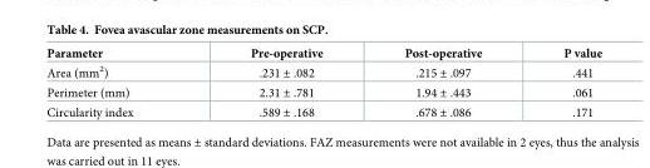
<table><thead><tr><td>Parameter</td><td>Pre-operative</td><td>Post-operative</td><td>P value</td></tr></thead><tbody><tr><td>Area (mm<sup>2</sup>)</td><td>.231 ± .082</td><td>.215 ± .097</td><td>.441</td></tr><tr><td>Perimeter (mm)</td><td>2.31 ± .781</td><td>1.94 ± .443</td><td>.061</td></tr><tr><td>Circularity index</td><td>.589 ± .168</td><td>.678 ± .086</td><td>.171</td></tr></tbody></table>